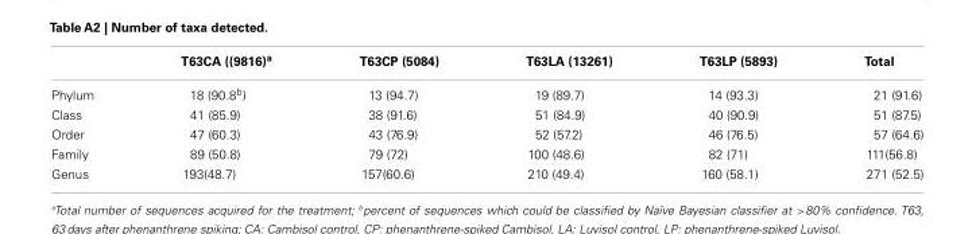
<table><thead><tr><td></td><td>T63CA ((9816)<sup>a</sup></td><td>T63CP (5084)</td><td>T63LA (13261)</td><td>T63LP (5893)</td><td>Total</td></tr></thead><tbody><tr><td>Phylum</td><td>18 (90.8<sup>b</sup>)</td><td>13 (94.7)</td><td>19 (89.7)</td><td>14 (93.3)</td><td>21 (91.6)</td></tr><tr><td>Class</td><td>41 (85.9)</td><td>38 (91.6)</td><td>51 (84.9)</td><td>40 (90.9)</td><td>51 (87.5)</td></tr><tr><td>Order</td><td>47 (60.3)</td><td>43 (76.9)</td><td>52 (57.2)</td><td>46 (76.5)</td><td>57 (64.6)</td></tr><tr><td>Family</td><td>89 (50.8)</td><td>79 (72)</td><td>100 (48.6)</td><td>82 (71)</td><td>111(56.8)</td></tr><tr><td>Genus</td><td>193(48.7)</td><td>157(60.6)</td><td>210 (49.4)</td><td>160 (58.1)</td><td>271 (52.5)</td></tr></tbody></table>